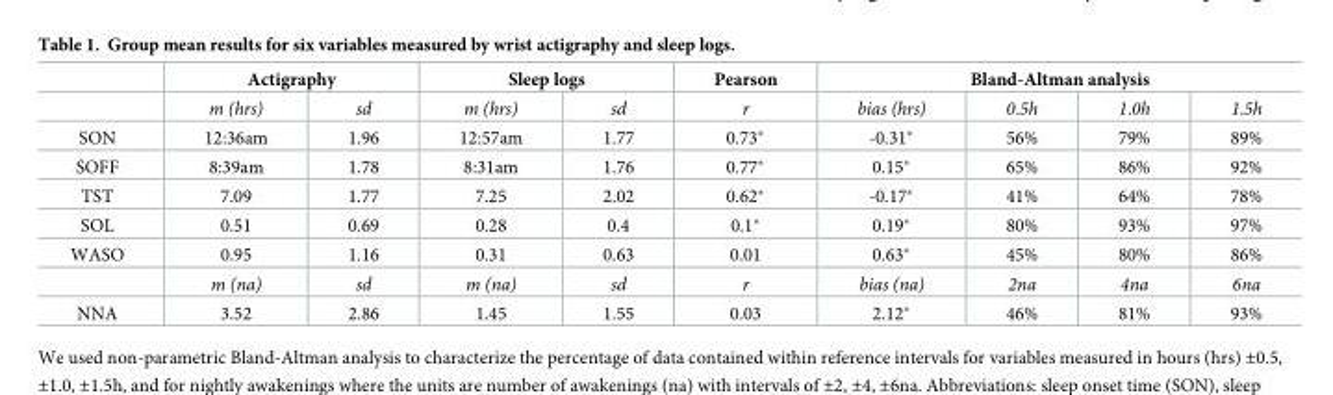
<table><thead><tr><td rowspan="2"></td><td colspan="2">Actigraphy</td><td colspan="2">Sleep logs</td><td rowspan="2">Pearson r</td><td colspan="4">Bland-Altman analysis</td></tr><tr><td>m (hrs)</td><td>sd</td><td>m (hrs)</td><td>sd</td><td>bias (hrs)</td><td>0.5h</td><td>1.0h</td><td>1.5h</td></tr></thead><tbody><tr><td>SON</td><td>12:36am</td><td>1.96</td><td>12:57am</td><td>1.77</td><td>0.73*</td><td>-0.31*</td><td>56%</td><td>79%</td><td>89%</td></tr><tr><td>SOFF</td><td>8:39am</td><td>1.78</td><td>8:31am</td><td>1.76</td><td>0.77*</td><td>0.15*</td><td>65%</td><td>86%</td><td>92%</td></tr><tr><td>TST</td><td>7.09</td><td>1.77</td><td>7.25</td><td>2.02</td><td>0.62*</td><td>-0.17*</td><td>41%</td><td>64%</td><td>78%</td></tr><tr><td>SOL</td><td>0.51</td><td>0.69</td><td>0.28</td><td>0.4</td><td>0.1*</td><td>0.19*</td><td>80%</td><td>93%</td><td>97%</td></tr><tr><td rowspan="2">WASO</td><td>0.95</td><td>1.16</td><td>0.31</td><td>0.63</td><td>0.01</td><td>0.63*</td><td>45%</td><td>80%</td><td>86%</td></tr><tr><td>m (na)</td><td>sd</td><td>m (na)</td><td>sd</td><td>r</td><td>bias (na)</td><td>2na</td><td>4na</td><td>6na</td></tr><tr><td>NNA</td><td>3.52</td><td>2.86</td><td>1.45</td><td>1.55</td><td>0.03</td><td>2.12*</td><td>46%</td><td>81%</td><td>93%</td></tr></tbody></table>